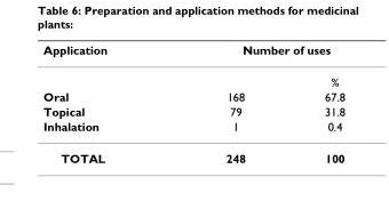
<table><thead><tr><td rowspan="2">Application</td><td colspan="2">Number of uses</td></tr><tr><td></td><td>%</td></tr></thead><tbody><tr><td>Oral</td><td>168</td><td>67.8</td></tr><tr><td>Topical</td><td>79</td><td>31.8</td></tr><tr><td>Inhalation</td><td>1</td><td>0.4</td></tr><tr><td>TOTAL</td><td>248</td><td>100</td></tr></tbody></table>